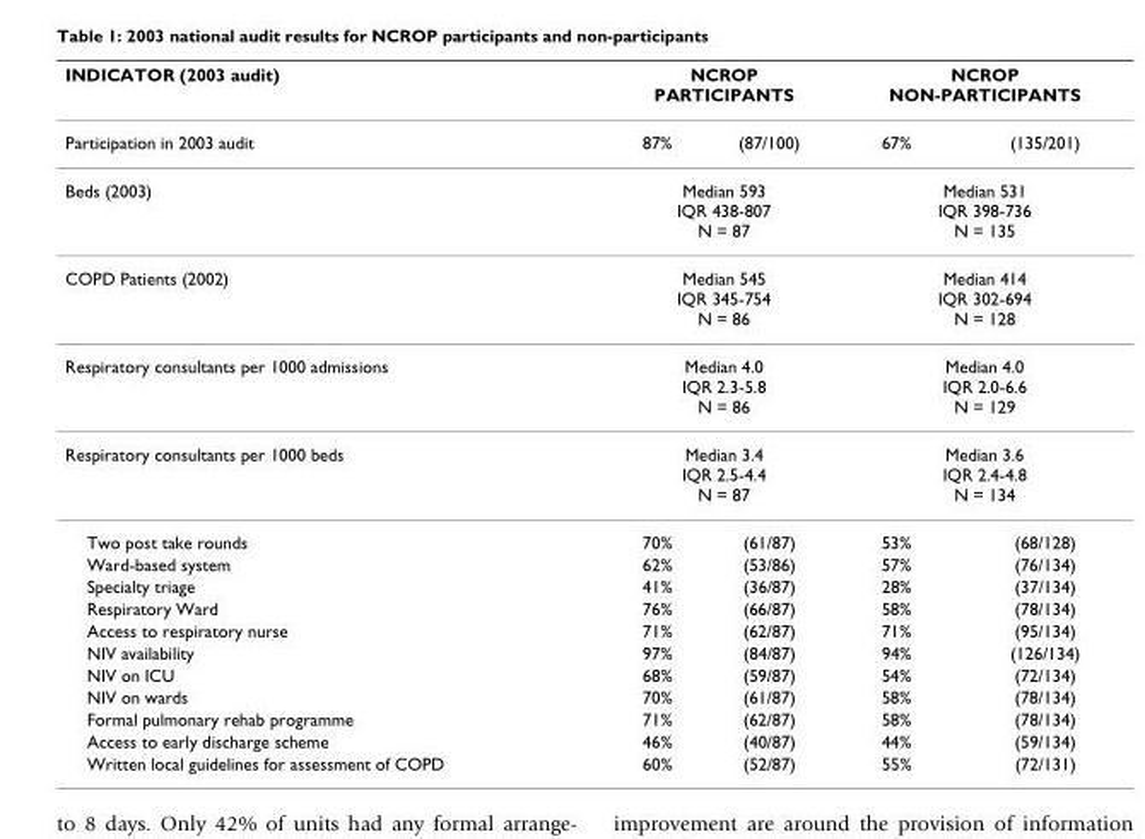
<table><thead><tr><td rowspan="2">INDICATOR (2003 audit) Participation in 2003 audit</td><td colspan="2">NCROP PARTICIPANTS</td><td colspan="2">NCROP NON-PARTICIPANTS</td></tr><tr><td>87%</td><td>(87/100)</td><td>67%</td><td>(135/201)</td></tr></thead><tbody><tr><td>Beds (2003)</td><td colspan="2">Median 593 IQR 438-807 N = 87</td><td colspan="2">Median 531 IQR 398-736 N = 135</td></tr><tr><td>COPD Patients (2002)</td><td colspan="2">Median 545 IQR 345-754 N = 86</td><td colspan="2">Median 414 IQR 302-694 N = 128</td></tr><tr><td>Respiratory consultants per 1000 admissions</td><td colspan="2">Median 4.0 IQR 2.3-5.8 N = 86</td><td colspan="2">Median 4.0 IQR 2.0-6.6 N = 129</td></tr><tr><td>Respiratory consultants per 1000 beds</td><td colspan="2">Median 3.4 IQR 2.5-4.4 N = 87</td><td colspan="2">Median 3.6 IQR 2.4-4.8 N = 134</td></tr><tr><td>Two post take rounds</td><td>70%</td><td>(61/87)</td><td>53%</td><td>(68/128)</td></tr><tr><td>Ward-based system</td><td>62%</td><td>(53/86)</td><td>57%</td><td>(76/134)</td></tr><tr><td>Specialty triage</td><td>41%</td><td>(36/87)</td><td>28%</td><td>(37/134)</td></tr><tr><td>Respiratory Ward</td><td>76%</td><td>(66/87)</td><td>58%</td><td>(78/134)</td></tr><tr><td>Access to respiratory nurse</td><td>71%</td><td>(62/87)</td><td>71%</td><td>(95/134)</td></tr><tr><td>NIV availability</td><td>97%</td><td>(84/87)</td><td>94%</td><td>(126/134)</td></tr><tr><td>NIV on ICU</td><td>68%</td><td>(59/87)</td><td>54%</td><td>(72/134)</td></tr><tr><td>NIV on wards</td><td>70%</td><td>(61/87)</td><td>58%</td><td>(78/134)</td></tr><tr><td>Formal pulmonary rehab programme</td><td>71%</td><td>(62/87)</td><td>58%</td><td>(78/134)</td></tr><tr><td>Access to early discharge scheme</td><td>46%</td><td>(40/87)</td><td>44%</td><td>(59/134)</td></tr><tr><td>Written local guidelines for assessment of COPD</td><td>60%</td><td>(52/87)</td><td>55%</td><td>(72/131)</td></tr></tbody></table>